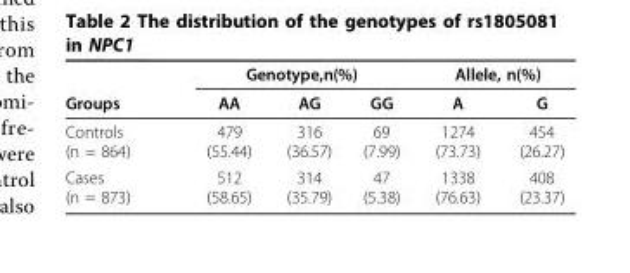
<table><thead><tr><td rowspan="2">Groups</td><td colspan="3">Genotype,n(%)</td><td colspan="2">Allele, n(%)</td></tr><tr><td>AA</td><td>AG</td><td>GG</td><td>A</td><td>G</td></tr></thead><tbody><tr><td>Controls (n = 864)</td><td>479 (55.44)</td><td>316 (36.57)</td><td>69 (7.99)</td><td>1274 (73.73)</td><td>454 (26.27)</td></tr><tr><td>Cases (n = 873)</td><td>512 (58.65)</td><td>314 (35.79)</td><td>47 (5.38)</td><td>1338 (76.63)</td><td>408 (23.37)</td></tr></tbody></table>